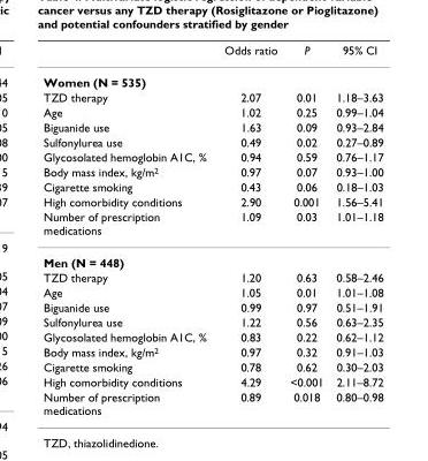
<table><thead><tr><td></td><td>Odds ratio</td><td>P</td><td>95% CI</td></tr></thead><tbody><tr><td colspan="4">Women (N = 535)</td></tr><tr><td>TZD therapy</td><td>2.07</td><td>0.01</td><td>1.18–3.63</td></tr><tr><td>Age</td><td>1.02</td><td>0.25</td><td>0.99–1.04</td></tr><tr><td>Biguanide use</td><td>1.63</td><td>0.09</td><td>0.93–2.84</td></tr><tr><td>Sulfonylurea use</td><td>0.49</td><td>0.02</td><td>0.27–0.89</td></tr><tr><td>Glycosolated hemoglobin A1C, %</td><td>0.94</td><td>0.59</td><td>0.76–1.17</td></tr><tr><td>Body mass index, kg/m<sup>2</sup></td><td>0.97</td><td>0.07</td><td>0.93–1.00</td></tr><tr><td>Cigarette smoking</td><td>0.43</td><td>0.06</td><td>0.18–1.03</td></tr><tr><td>High comorbidity conditions</td><td>2.90</td><td>0.001</td><td>1.56–5.41</td></tr><tr><td>Number of prescription medications</td><td>1.09</td><td>0.03</td><td>1.01–1.18</td></tr><tr><td colspan="4">Men (N = 448)</td></tr><tr><td>TZD therapy</td><td>1.20</td><td>0.63</td><td>0.58–2.46</td></tr><tr><td>Age</td><td>1.05</td><td>0.01</td><td>1.01–1.08</td></tr><tr><td>Biguanide use</td><td>0.99</td><td>0.97</td><td>0.51–1.91</td></tr><tr><td>Sulfonylurea use</td><td>1.22</td><td>0.56</td><td>0.63–2.35</td></tr><tr><td>Glycosolated hemoglobin A1C, %</td><td>0.83</td><td>0.22</td><td>0.62–1.12</td></tr><tr><td>Body mass index, kg/m<sup>2</sup></td><td>0.97</td><td>0.32</td><td>0.91–1.03</td></tr><tr><td>Cigarette smoking</td><td>0.78</td><td>0.62</td><td>0.30–2.03</td></tr><tr><td>High comorbidity conditions</td><td>4.29</td><td>&lt;0.001</td><td>2.11–8.72</td></tr><tr><td>Number of prescription medications</td><td>0.89</td><td>0.018</td><td>0.80–0.98</td></tr></tbody></table>